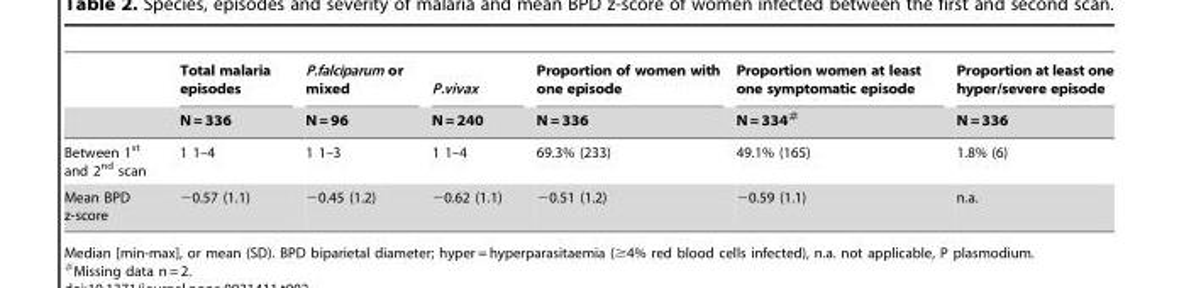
<table><thead><tr><td rowspan="2"></td><td rowspan="2">Total malaria episodes N = 336</td><td rowspan="2">P.falciparum or mixed N = 96</td><td rowspan="2">P.vivax N = 240</td><td rowspan="2">Proportion of women with one episode N = 336</td><td rowspan="2">Proportion women at least one symptomatic episode N = 334#</td><td rowspan="2">Proportion at least one hyper/severe episode N = 336</td></tr><tr></tr></thead><tbody><tr><td>Between 1<sup>st</sup> and 2<sup>nd</sup> scan</td><td>1 1–4</td><td>1 1–3</td><td>1 1–4</td><td>69.3% (233)</td><td>49.1% (165)</td><td>1.8% (6)</td></tr><tr><td>Mean BPD z-score</td><td>−0.57 (1.1)</td><td>−0.45 (1.2)</td><td>−0.62 (1.1)</td><td>−0.51 (1.2)</td><td>−0.59 (1.1)</td><td>n.a.</td></tr></tbody></table>